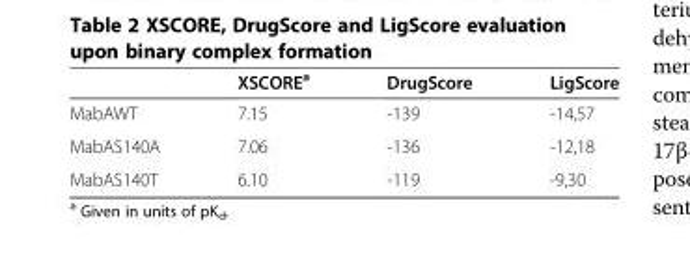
<table><thead><tr><td></td><td>XSCORE<sup>a</sup></td><td>DrugScore</td><td>LigScore</td></tr></thead><tbody><tr><td>MabAWT</td><td>7.15</td><td>-139</td><td>-14,57</td></tr><tr><td>MabAS140A</td><td>7.06</td><td>-136</td><td>-12,18</td></tr><tr><td>MabAS140T</td><td>6.10</td><td>-119</td><td>-9,30</td></tr></tbody></table>